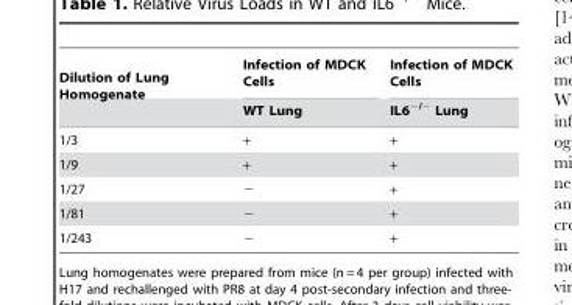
<table><thead><tr><td rowspan="2">Dilution of Lung Homogenate</td><td rowspan="2">Infection of MDCK Cells WT Lung</td><td rowspan="2">Infection of MDCK Cells IL6<sup>−/−</sup> Lung</td></tr><tr></tr></thead><tbody><tr><td>1/3</td><td>+</td><td>+</td></tr><tr><td>1/9</td><td>+</td><td>+</td></tr><tr><td>1/27</td><td>−</td><td>+</td></tr><tr><td>1/81</td><td>−</td><td>+</td></tr><tr><td>1/243</td><td>−</td><td>+</td></tr></tbody></table>